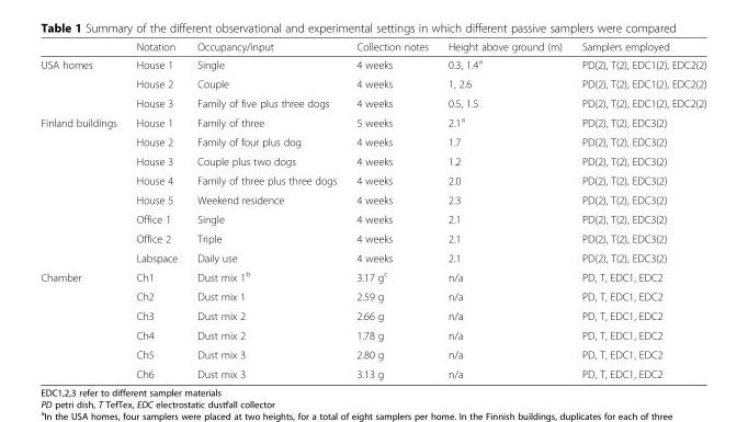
<table><thead><tr><td></td><td>Notation</td><td>Occupancy/input</td><td>Collection notes</td><td>Height above ground (m)</td><td>Samplers employed</td></tr></thead><tbody><tr><td rowspan="3">USA homes</td><td>House 1</td><td>Single</td><td>4 weeks</td><td>0.3, 1.4<sup>a</sup></td><td>PD(2), T(2), EDC1(2), EDC2(2)</td></tr><tr><td>House 2</td><td>Couple</td><td>4 weeks</td><td>1, 2.6</td><td>PD(2), T(2), EDC1(2), EDC2(2)</td></tr><tr><td>House 3</td><td>Family of five plus three dogs</td><td>4 weeks</td><td>0.5, 1.5</td><td>PD(2), T(2), EDC1(2), EDC2(2)</td></tr><tr><td rowspan="8">Finland buildings</td><td>House 1</td><td>Family of three</td><td>5 weeks</td><td>2.1<sup>a</sup></td><td>PD(2), T(2), EDC3(2)</td></tr><tr><td>House 2</td><td>Family of four plus dog</td><td>4 weeks</td><td>1.7</td><td>PD(2), T(2), EDC3(2)</td></tr><tr><td>House 3</td><td>Couple plus two dogs</td><td>4 weeks</td><td>1.2</td><td>PD(2), T(2), EDC3(2)</td></tr><tr><td>House 4</td><td>Family of three plus three dogs</td><td>4 weeks</td><td>2.0</td><td>PD(2), T(2), EDC3(2)</td></tr><tr><td>House 5</td><td>Weekend residence</td><td>4 weeks</td><td>2.3</td><td>PD(2), T(2), EDC3(2)</td></tr><tr><td>Office 1</td><td>Single</td><td>4 weeks</td><td>2.1</td><td>PD(2), T(2), EDC3(2)</td></tr><tr><td>Office 2</td><td>Triple</td><td>4 weeks</td><td>2.1</td><td>PD(2), T(2), EDC3(2)</td></tr><tr><td>Labspace</td><td>Daily use</td><td>4 weeks</td><td>2.1</td><td>PD(2), T(2), EDC3(2)</td></tr><tr><td rowspan="6">Chamber</td><td>Ch1</td><td>Dust mix 1<sup>b</sup></td><td>3.17 g<sup>c</sup></td><td>n/a</td><td>PD, T, EDC1, EDC2</td></tr><tr><td>Ch2</td><td>Dust mix 1</td><td>2.59 g</td><td>n/a</td><td>PD, T, EDC1, EDC2</td></tr><tr><td>Ch3</td><td>Dust mix 2</td><td>2.66 g</td><td>n/a</td><td>PD, T, EDC1, EDC2</td></tr><tr><td>Ch4</td><td>Dust mix 2</td><td>1.78 g</td><td>n/a</td><td>PD, T, EDC1, EDC2</td></tr><tr><td>Ch5</td><td>Dust mix 3</td><td>2.80 g</td><td>n/a</td><td>PD, T, EDC1, EDC2</td></tr><tr><td>Ch6</td><td>Dust mix 3</td><td>3.13 g</td><td>n/a</td><td>PD, T, EDC1, EDC2</td></tr></tbody></table>